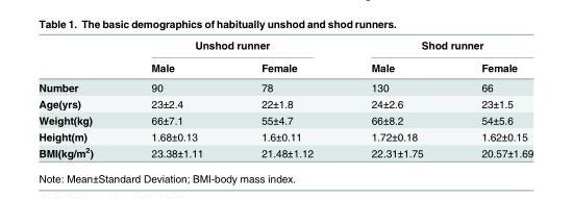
<table><thead><tr><td rowspan="2"></td><td colspan="2">Unshod runner</td><td colspan="2">Shod runner</td></tr><tr><td>Male</td><td>Female</td><td>Male</td><td>Female</td></tr></thead><tbody><tr><td>Number</td><td>90</td><td>78</td><td>130</td><td>66</td></tr><tr><td>Age(yrs)</td><td>23±2.4</td><td>22±1.8</td><td>24±2.6</td><td>23±1.5</td></tr><tr><td>Weight(kg)</td><td>66±7.1</td><td>55±4.7</td><td>66±8.2</td><td>54±5.6</td></tr><tr><td>Height(m)</td><td>1.68±0.13</td><td>1.6±0.11</td><td>1.72±0.18</td><td>1.62±0.15</td></tr><tr><td>BMI(kg/m<sup>2</sup>)</td><td>23.38±1.11</td><td>21.48±1.12</td><td>22.31±1.75</td><td>20.57±1.69</td></tr></tbody></table>